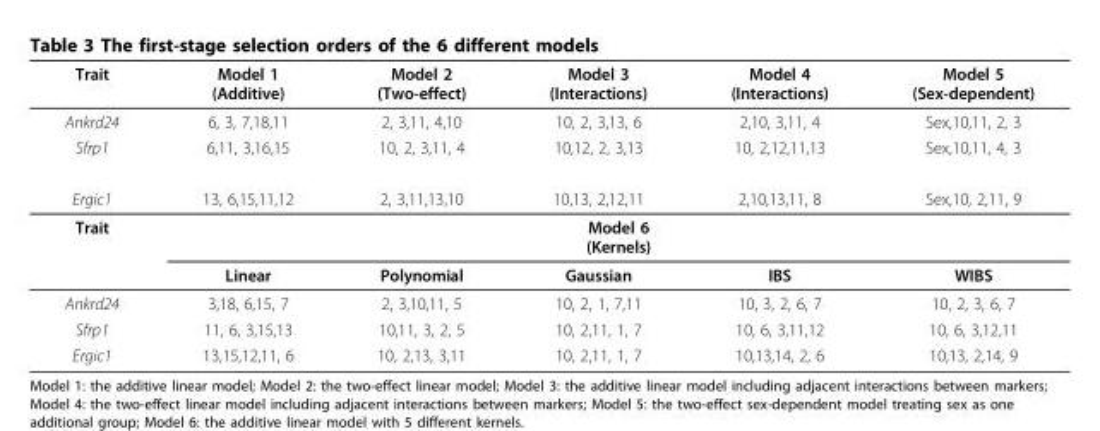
<table><thead><tr><td>Trait</td><td>Model 1 (Additive)</td><td>Model 2 (Two-effect)</td><td>Model 3 (Interactions)</td><td>Model 4 (Interactions)</td><td>Model 5 (Sex-dependent)</td></tr></thead><tbody><tr><td>Ankrd24</td><td>6, 3, 7,18,11</td><td>2, 3,11, 4,10</td><td>10, 2, 3,13, 6</td><td>2,10, 3,11, 4</td><td>Sex,10,11, 2, 3</td></tr><tr><td>Sfrp1</td><td>6,11, 3,16,15</td><td>10, 2, 3,11, 4</td><td>10,12, 2, 3,13</td><td>10, 2,12,11,13</td><td>Sex,10,11, 4, 3</td></tr><tr><td>Ergic1</td><td>13, 6,15,11,12</td><td>2, 3,11,13,10</td><td>10,13, 2,12,11</td><td>2,10,13,11, 8</td><td>Sex,10, 2,11, 9</td></tr><tr><td rowspan="2">Trait</td><td colspan="5">Model 6 (Kernels)</td></tr><tr><td>Linear</td><td>Polynomial</td><td>Gaussian</td><td>IBS</td><td>WIBS</td></tr><tr><td>Ankrd24</td><td>3,18, 6,15, 7</td><td>2, 3,10,11, 5</td><td>10, 2, 1, 7,11</td><td>10, 3, 2, 6, 7</td><td>10, 2, 3, 6, 7</td></tr><tr><td>Sfrp1</td><td>11, 6, 3,15,13</td><td>10,11, 3, 2, 5</td><td>10, 2,11, 1, 7</td><td>10, 6, 3,11,12</td><td>10, 6, 3,12,11</td></tr><tr><td>Ergic1</td><td>13,15,12,11, 6</td><td>10, 2,13, 3,11</td><td>10, 2,11, 1, 7</td><td>10,13,14, 2, 6</td><td>10,13, 2,14, 9</td></tr></tbody></table>